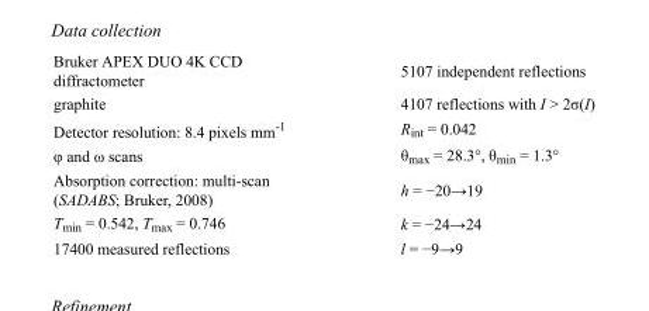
<table><tbody><tr><td>Bruker APEX DUO 4K CCD diffractometer</td><td>5107 independent reflections</td></tr><tr><td>graphite</td><td>4107 reflections with I &gt; 2σ(I)</td></tr><tr><td>Detector resolution: 8.4 pixels mm<sup>-1</sup></td><td>R<sub>int</sub> = 0.042</td></tr><tr><td>φ and ω scans</td><td>θ<sub>max</sub> = 28.3°, θ<sub>min</sub> = 1.3°</td></tr><tr><td>Absorption correction: multi-scan (SADABS; Bruker, 2008)</td><td>h = −20→19</td></tr><tr><td>T<sub>min</sub> = 0.542, T<sub>max</sub> = 0.746</td><td>k = −24→24</td></tr><tr><td>17400 measured reflections</td><td>l = −9→9</td></tr></tbody></table>